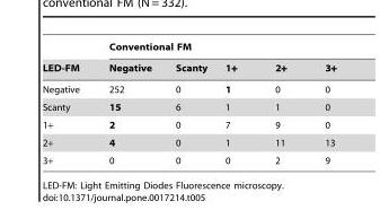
<table><thead><tr><td rowspan="2">LED-FM</td><td colspan="5">Conventional FM</td></tr><tr><td>Negative</td><td>Scanty</td><td>1+</td><td>2+</td><td>3+</td></tr></thead><tbody><tr><td>Negative</td><td>252</td><td>0</td><td>1</td><td>0</td><td>0</td></tr><tr><td>Scanty</td><td>15</td><td>6</td><td>1</td><td>1</td><td>0</td></tr><tr><td>1+</td><td>2</td><td>0</td><td>7</td><td>9</td><td>0</td></tr><tr><td>2+</td><td>4</td><td>0</td><td>1</td><td>11</td><td>13</td></tr><tr><td>3+</td><td>0</td><td>0</td><td>0</td><td>2</td><td>9</td></tr></tbody></table>